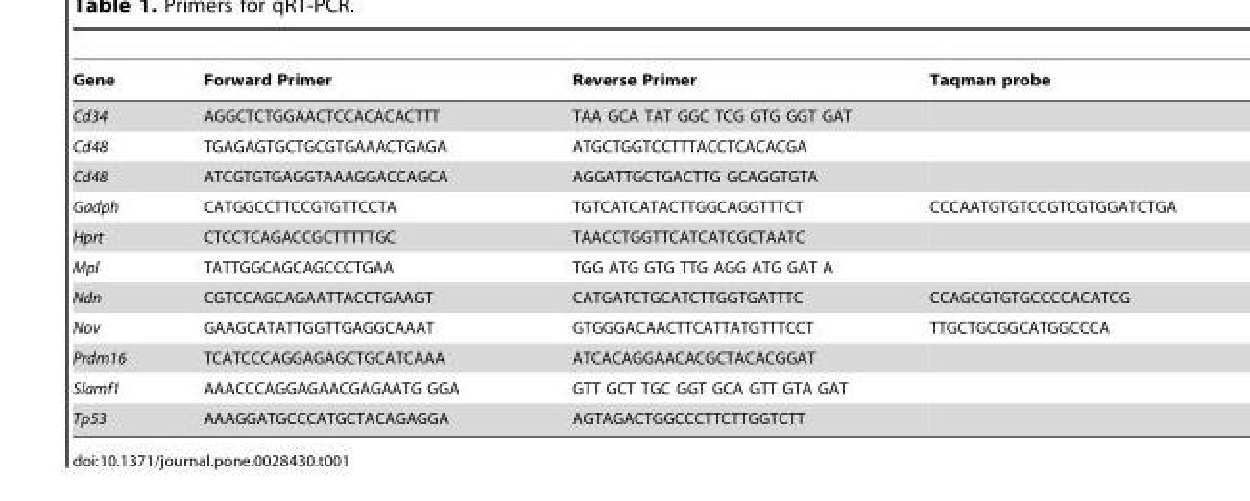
<table><thead><tr><td>Gene</td><td>Forward Primer</td><td>Reverse Primer</td><td>Taqman probe</td></tr></thead><tbody><tr><td>Cd34</td><td>AGGCTCTGGAACTCCACACACTTT</td><td>TAA GCA TAT GGC TCG GTG GGT GAT</td><td></td></tr><tr><td>Cd48</td><td>TGAGAGTGCTGCGTGAAACTGAGA</td><td>ATGCTGGTCCTTTACCTCACACGA</td><td></td></tr><tr><td>Cd48</td><td>ATCGTGTGAGGTAAAGGACCAGCA</td><td>AGGATTGCTGACTTG GCAGGTGTA</td><td></td></tr><tr><td>Gadph</td><td>CATGGCCTTCCGTGTTCCTA</td><td>TGTCATCATACTTGGCAGGTTTCT</td><td>CCCAATGTGTCCGTCGTGGATCTGA</td></tr><tr><td>Hprt</td><td>CTCCTCAGACCGCTTTTTGC</td><td>TAACCTGGTTCATCATCGCTAATC</td><td></td></tr><tr><td>Mpl</td><td>TATTGGCAGCAGCCCTGAA</td><td>TGG ATG GTG TTG AGG ATG GAT A</td><td></td></tr><tr><td>Ndn</td><td>CGTCCAGCAGAATTACCTGAAGT</td><td>CATGATCTGCATCTTGGTGATTTC</td><td>CCAGCGTGTGCCCCACATCG</td></tr><tr><td>Nov</td><td>GAAGCATATTGGTTGAGGCAAAT</td><td>GTGGGACAACTTCATTATGTTTCCT</td><td>TTGCTGCGGCATGGCCCA</td></tr><tr><td>Prdm16</td><td>TCATCCCAGGAGAGCTGCATCAAA</td><td>ATCACAGGAACACGCTACACGGAT</td><td></td></tr><tr><td>Slamf1</td><td>AAACCCAGGAGAACGAGAATG GGA</td><td>GTT GCT TGC GGT GCA GTT GTA GAT</td><td></td></tr><tr><td>Tp53</td><td>AAAGGATGCCCATGCTACAGAGGA</td><td>AGTAGACTGGCCCTTCTTGGTCTT</td><td></td></tr></tbody></table>